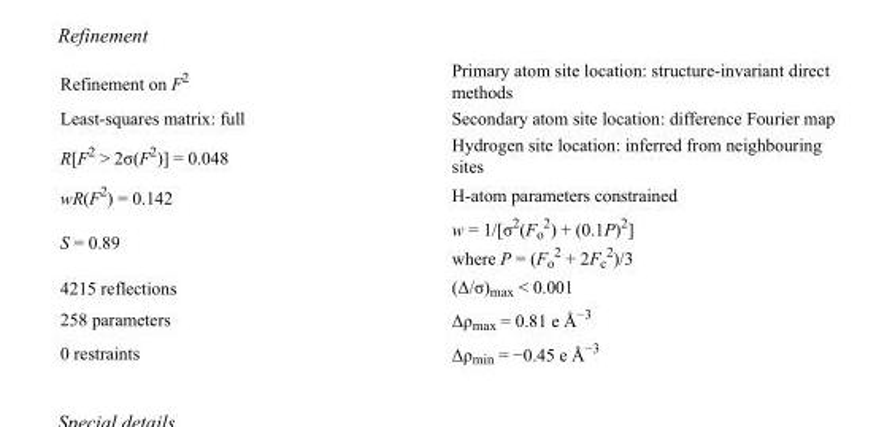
<table><tbody><tr><td>Refinement on F<sup>2</sup></td><td>Primary atom site location: structure-invariant direct methods</td></tr><tr><td>Least-squares matrix: full</td><td>Secondary atom site location: difference Fourier map</td></tr><tr><td>R[F<sup>2</sup> &gt; 2σ(F<sup>2</sup>)] = 0.048</td><td>Hydrogen site location: inferred from neighbouring sites</td></tr><tr><td>wR(F<sup>2</sup>) = 0.142</td><td>H-atom parameters constrained</td></tr><tr><td>S = 0.89</td><td>w = 1/[σ<sup>2</sup>(F<sub>o</sub> <sup>2</sup>) + (0.1P)<sup>2</sup>] where P = (F<sub>o</sub> <sup>2</sup> + 2F<sub>c</sub> <sup>2</sup>)/3</td></tr><tr><td>4215 reflections</td><td>(Δ/σ)<sub>max</sub> &lt; 0.001</td></tr><tr><td>258 parameters</td><td>Δρ<sub>max</sub> = 0.81 e Å<sup>−3</sup></td></tr><tr><td>0 restraints</td><td>Δρ<sub>min</sub> = −0.45 e Å<sup>−3</sup></td></tr></tbody></table>